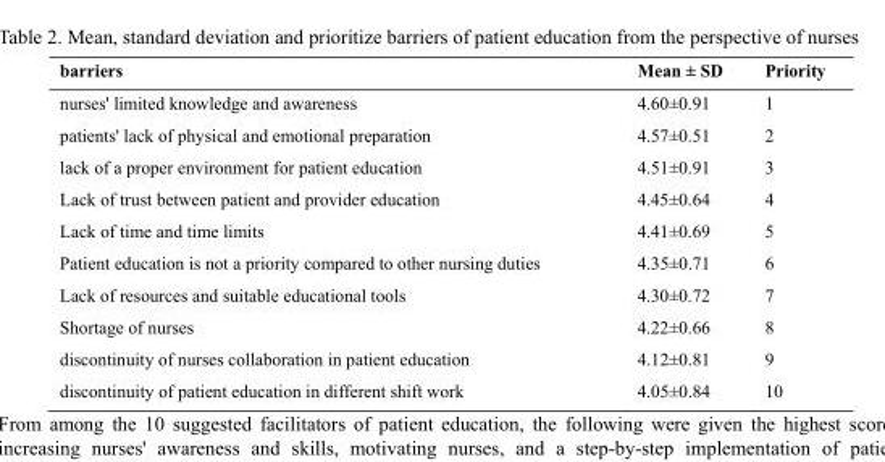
<table><thead><tr><td>barriers</td><td>Mean ± SD</td><td>Priority</td></tr></thead><tbody><tr><td>nurses&#x27; limited knowledge and awareness</td><td>4.60±0.91</td><td>1</td></tr><tr><td>patients&#x27; lack of physical and emotional preparation</td><td>4.57±0.51</td><td>2</td></tr><tr><td>lack of a proper environment for patient education</td><td>4.51±0.91</td><td>3</td></tr><tr><td>Lack of trust between patient and provider education</td><td>4.45±0.64</td><td>4</td></tr><tr><td>Lack of time and time limits</td><td>4.41±0.69</td><td>5</td></tr><tr><td>Patient education is not a priority compared to other nursing duties</td><td>4.35±0.71</td><td>6</td></tr><tr><td>Lack of resources and suitable educational tools</td><td>4.30±0.72</td><td>7</td></tr><tr><td>Shortage of nurses</td><td>4.22±0.66</td><td>8</td></tr><tr><td>discontinuity of nurses collaboration in patient education</td><td>4.12±0.81</td><td>9</td></tr><tr><td>discontinuity of patient education in different shift work</td><td>4.05±0.84</td><td>10</td></tr></tbody></table>